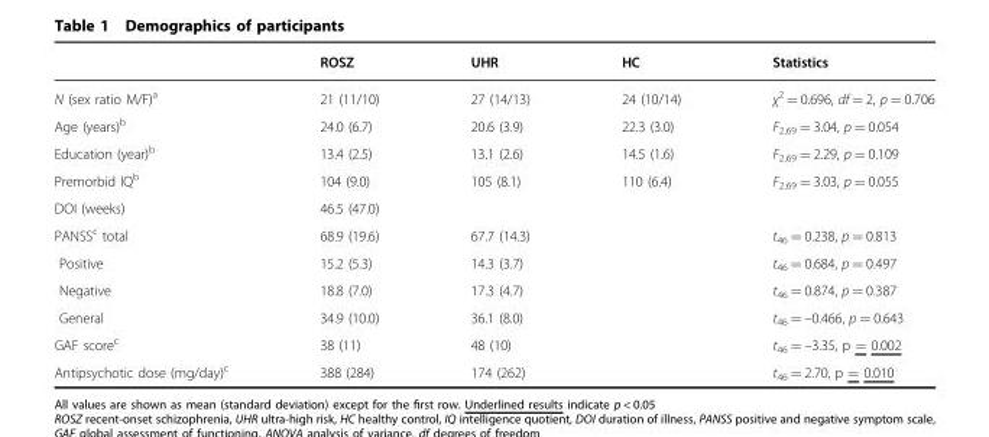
<table><thead><tr><td></td><td>ROSZ</td><td>UHR</td><td>HC</td><td>Statistics</td></tr></thead><tbody><tr><td>N (sex ratio M/F)<sup>a</sup></td><td>21 (11/10)</td><td>27 (14/13)</td><td>24 (10/14)</td><td>χ<sup>2</sup> = 0.696, df = 2, p = 0.706</td></tr><tr><td>Age (years)<sup>b</sup></td><td>24.0 (6.7)</td><td>20.6 (3.9)</td><td>22.3 (3.0)</td><td>F<sub>2,69</sub> = 3.04, p = 0.054</td></tr><tr><td>Education (year)<sup>b</sup></td><td>13.4 (2.5)</td><td>13.1 (2.6)</td><td>14.5 (1.6)</td><td>F<sub>2,69</sub> = 2.29, p = 0.109</td></tr><tr><td>Premorbid IQ<sup>b</sup></td><td>104 (9.0)</td><td>105 (8.1)</td><td>110 (6.4)</td><td>F<sub>2,69</sub> = 3.03, p = 0.055</td></tr><tr><td>DOI (weeks)</td><td>46.5 (47.0)</td><td></td><td></td><td></td></tr><tr><td>PANSS<sup>c</sup> total</td><td>68.9 (19.6)</td><td>67.7 (14.3)</td><td></td><td>t<sub>46</sub> = 0.238, p = 0.813</td></tr><tr><td>Positive</td><td>15.2 (5.3)</td><td>14.3 (3.7)</td><td></td><td>t<sub>46</sub> = 0.684, p = 0.497</td></tr><tr><td>Negative</td><td>18.8 (7.0)</td><td>17.3 (4.7)</td><td></td><td>t<sub>46</sub> = 0.874, p = 0.387</td></tr><tr><td>General</td><td>34.9 (10.0)</td><td>36.1 (8.0)</td><td></td><td>t<sub>46</sub> = –0.466, p = 0.643</td></tr><tr><td>GAF score<sup>c</sup></td><td>38 (11)</td><td>48 (10)</td><td></td><td>t<sub>46</sub> = –3.35, p = 0.002</td></tr><tr><td>Antipsychotic dose (mg/day)<sup>c</sup></td><td>388 (284)</td><td>174 (262)</td><td></td><td>t<sub>46</sub> = 2.70, p = 0.010</td></tr></tbody></table>